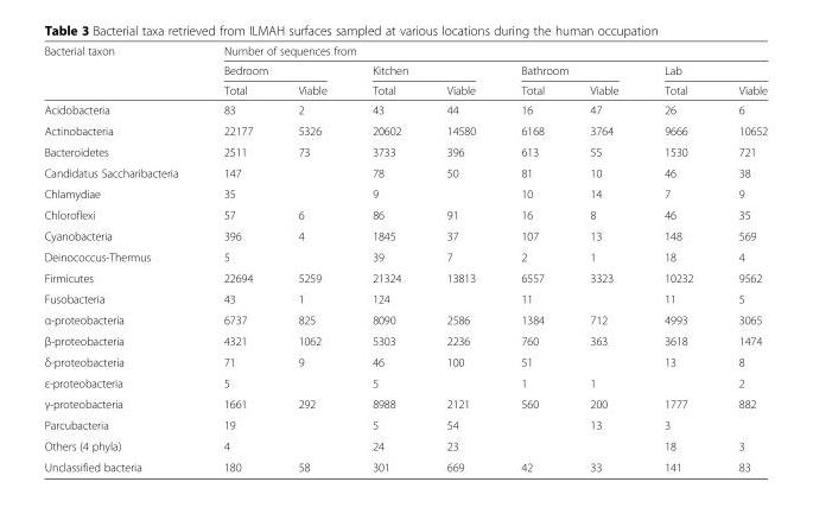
<table><thead><tr><td rowspan="3">Bacterial taxon</td><td colspan="8">Number of sequences from</td></tr><tr><td colspan="2">Bedroom</td><td colspan="2">Kitchen</td><td colspan="2">Bathroom</td><td colspan="2">Lab</td></tr><tr><td>Total</td><td>Viable</td><td>Total</td><td>Viable</td><td>Total</td><td>Viable</td><td>Total</td><td>Viable</td></tr></thead><tbody><tr><td>Acidobacteria</td><td>83</td><td>2</td><td>43</td><td>44</td><td>16</td><td>47</td><td>26</td><td>6</td></tr><tr><td>Actinobacteria</td><td>22177</td><td>5326</td><td>20602</td><td>14580</td><td>6168</td><td>3764</td><td>9666</td><td>10652</td></tr><tr><td>Bacteroidetes</td><td>2511</td><td>73</td><td>3733</td><td>396</td><td>613</td><td>55</td><td>1530</td><td>721</td></tr><tr><td>Candidatus Saccharibacteria</td><td>147</td><td></td><td>78</td><td>50</td><td>81</td><td>10</td><td>46</td><td>38</td></tr><tr><td>Chlamydiae</td><td>35</td><td></td><td>9</td><td></td><td>10</td><td>14</td><td>7</td><td>9</td></tr><tr><td>Chloroflexi</td><td>57</td><td>6</td><td>86</td><td>91</td><td>16</td><td>8</td><td>46</td><td>35</td></tr><tr><td>Cyanobacteria</td><td>396</td><td>4</td><td>1845</td><td>37</td><td>107</td><td>13</td><td>148</td><td>569</td></tr><tr><td>Deinococcus-Thermus</td><td>5</td><td></td><td>39</td><td>7</td><td>2</td><td>1</td><td>18</td><td>4</td></tr><tr><td>Firmicutes</td><td>22694</td><td>5259</td><td>21324</td><td>13813</td><td>6557</td><td>3323</td><td>10232</td><td>9562</td></tr><tr><td>Fusobacteria</td><td>43</td><td>1</td><td>124</td><td></td><td>11</td><td></td><td>11</td><td>5</td></tr><tr><td>α-proteobacteria</td><td>6737</td><td>825</td><td>8090</td><td>2586</td><td>1384</td><td>712</td><td>4993</td><td>3065</td></tr><tr><td>β-proteobacteria</td><td>4321</td><td>1062</td><td>5303</td><td>2236</td><td>760</td><td>363</td><td>3618</td><td>1474</td></tr><tr><td>δ-proteobacteria</td><td>71</td><td>9</td><td>46</td><td>100</td><td>51</td><td></td><td>13</td><td>8</td></tr><tr><td>ε-proteobacteria</td><td>5</td><td></td><td>5</td><td></td><td>1</td><td>1</td><td></td><td>2</td></tr><tr><td>γ-proteobacteria</td><td>1661</td><td>292</td><td>8988</td><td>2121</td><td>560</td><td>200</td><td>1777</td><td>882</td></tr><tr><td>Parcubacteria</td><td>19</td><td></td><td>5</td><td>54</td><td></td><td>13</td><td>3</td><td></td></tr><tr><td>Others (4 phyla)</td><td>4</td><td></td><td>24</td><td>23</td><td></td><td></td><td>18</td><td>3</td></tr><tr><td>Unclassified bacteria</td><td>180</td><td>58</td><td>301</td><td>669</td><td>42</td><td>33</td><td>141</td><td>83</td></tr></tbody></table>